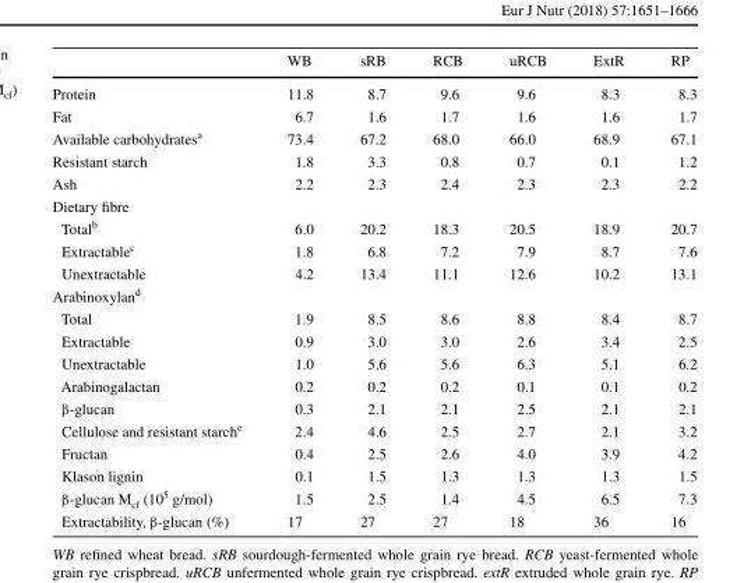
<table><thead><tr><td></td><td>WB</td><td>sRB</td><td>RCB</td><td>uRCB</td><td>ExtR</td><td>RP</td></tr></thead><tbody><tr><td>Protein</td><td>11.8</td><td>8.7</td><td>9.6</td><td>9.6</td><td>8.3</td><td>8.3</td></tr><tr><td>Fat</td><td>6.7</td><td>1.6</td><td>1.7</td><td>1.6</td><td>1.6</td><td>1.7</td></tr><tr><td>Available carbohydrates<sup>a</sup></td><td>73.4</td><td>67.2</td><td>68.0</td><td>66.0</td><td>68.9</td><td>67.1</td></tr><tr><td>Resistant starch</td><td>1.8</td><td>3.3</td><td>0.8</td><td>0.7</td><td>0.1</td><td>1.2</td></tr><tr><td>Ash</td><td>2.2</td><td>2.3</td><td>2.4</td><td>2.3</td><td>2.3</td><td>2.2</td></tr><tr><td colspan="7">Dietary fibre</td></tr><tr><td>Total<sup>b</sup></td><td>6.0</td><td>20.2</td><td>18.3</td><td>20.5</td><td>18.9</td><td>20.7</td></tr><tr><td>Extractable<sup>c</sup></td><td>1.8</td><td>6.8</td><td>7.2</td><td>7.9</td><td>8.7</td><td>7.6</td></tr><tr><td>Unextractable</td><td>4.2</td><td>13.4</td><td>11.1</td><td>12.6</td><td>10.2</td><td>13.1</td></tr><tr><td colspan="7">Arabinoxylan<sup>d</sup></td></tr><tr><td>Total</td><td>1.9</td><td>8.5</td><td>8.6</td><td>8.8</td><td>8.4</td><td>8.7</td></tr><tr><td>Extractable</td><td>0.9</td><td>3.0</td><td>3.0</td><td>2.6</td><td>3.4</td><td>2.5</td></tr><tr><td>Unextractable</td><td>1.0</td><td>5.6</td><td>5.6</td><td>6.3</td><td>5.1</td><td>6.2</td></tr><tr><td>Arabinogalactan</td><td>0.2</td><td>0.2</td><td>0.2</td><td>0.1</td><td>0.1</td><td>0.2</td></tr><tr><td>β-glucan</td><td>0.3</td><td>2.1</td><td>2.1</td><td>2.5</td><td>2.1</td><td>2.1</td></tr><tr><td>Cellulose and resistant starch<sup>e</sup></td><td>2.4</td><td>4.6</td><td>2.5</td><td>2.7</td><td>2.1</td><td>3.2</td></tr><tr><td>Fructan</td><td>0.4</td><td>2.5</td><td>2.6</td><td>4.0</td><td>3.9</td><td>4.2</td></tr><tr><td>Klason lignin</td><td>0.1</td><td>1.5</td><td>1.3</td><td>1.3</td><td>1.3</td><td>1.5</td></tr><tr><td>β-glucan M<sub>cf</sub> (10<sup>5</sup> g/mol)</td><td>1.5</td><td>2.5</td><td>1.4</td><td>4.5</td><td>6.5</td><td>7.3</td></tr><tr><td>Extractability, β-glucan (%)</td><td>17</td><td>27</td><td>27</td><td>18</td><td>36</td><td>16</td></tr></tbody></table>